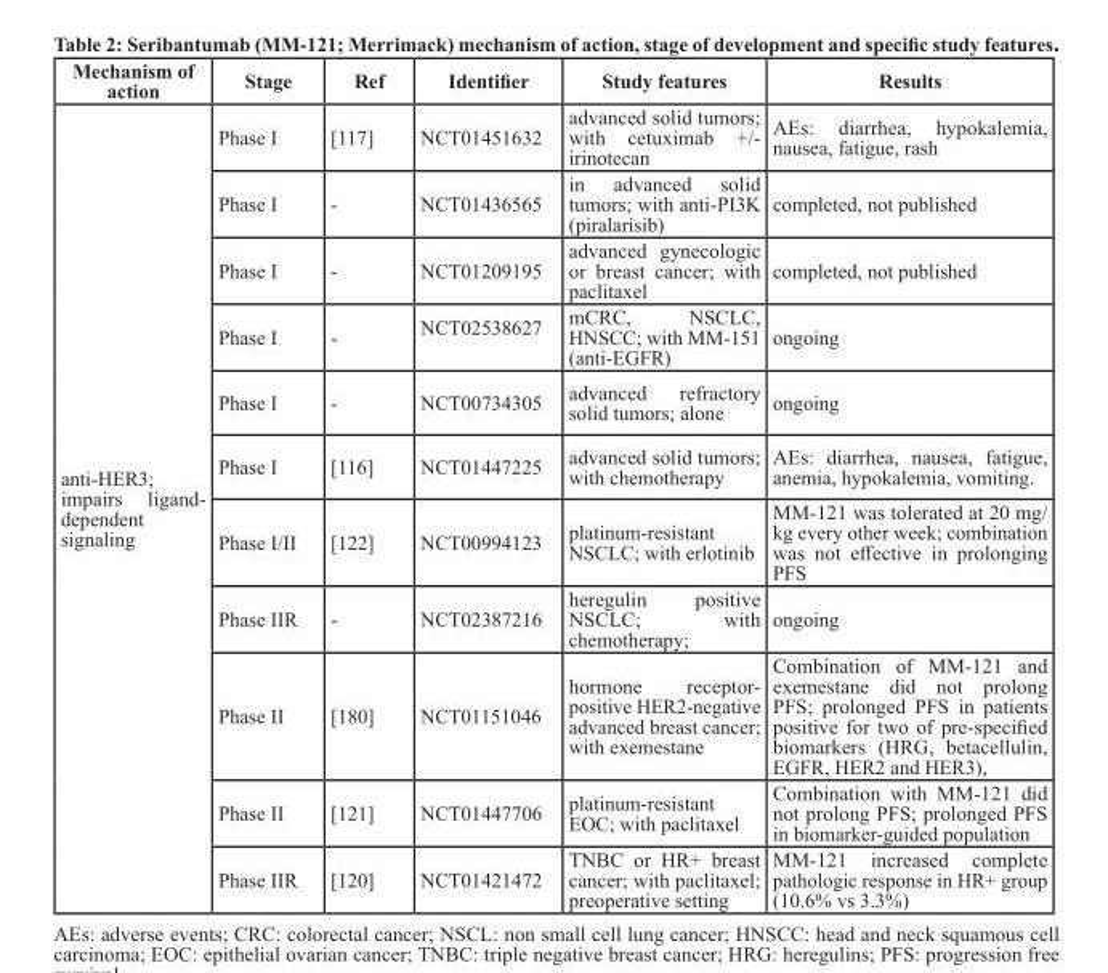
<table><thead><tr><td>Mechanism of action</td><td>Stage</td><td>Ref</td><td>Identifier</td><td>Study features</td><td>Results</td></tr></thead><tbody><tr><td rowspan="11">anti-HER3; impairs ligand- dependent signaling</td><td>Phase I</td><td>[117]</td><td>NCT01451632</td><td>advanced solid tumors; with cetuximab +/- irinotecan</td><td>AEs: diarrhea, hypokalemia, nausea, fatigue, rash</td></tr><tr><td>Phase I</td><td>-</td><td>NCT01436565</td><td>in advanced solid tumors; with anti-PI3K (piralarisib)</td><td>completed, not published</td></tr><tr><td>Phase I</td><td>-</td><td>NCT01209195</td><td>advanced gynecologic or breast cancer; with paclitaxel</td><td>completed, not published</td></tr><tr><td>Phase I</td><td>-</td><td>NCT02538627</td><td>mCRC, NSCLC, HNSCC; with MM-151 (anti-EGFR)</td><td>ongoing</td></tr><tr><td>Phase I</td><td>-</td><td>NCT00734305</td><td>advanced refractory solid tumors; alone</td><td>ongoing</td></tr><tr><td>Phase I</td><td>[116]</td><td>NCT01447225</td><td>advanced solid tumors; with chemotherapy</td><td>AEs: diarrhea, nausea, fatigue, anemia, hypokalemia, vomiting.</td></tr><tr><td>Phase I/II</td><td>[122]</td><td>NCT00994123</td><td>platinum-resistant NSCLC; with erlotinib</td><td>MM-121 was tolerated at 20 mg/ kg every other week; combination was not effective in prolonging PFS</td></tr><tr><td>Phase IIR</td><td>-</td><td>NCT02387216</td><td>heregulin positive NSCLC; with chemotherapy;</td><td>ongoing</td></tr><tr><td>Phase II</td><td>[180]</td><td>NCT01151046</td><td>hormone receptor- positive HER2-negative advanced breast cancer; with exemestane</td><td>Combination of MM-121 and exemestane did not prolong PFS; prolonged PFS in patients positive for two of pre-specified biomarkers (HRG, betacellulin, EGFR, HER2 and HER3),</td></tr><tr><td>Phase II</td><td>[121]</td><td>NCT01447706</td><td>platinum-resistant EOC; with paclitaxel</td><td>Combination with MM-121 did not prolong PFS; prolonged PFS in biomarker-guided population</td></tr><tr><td>Phase IIR</td><td>[120]</td><td>NCT01421472</td><td>TNBC or HR+ breast cancer; with paclitaxel; preoperative setting</td><td>MM-121 increased complete pathologic response in HR+ group (10.6% vs 3.3%)</td></tr></tbody></table>